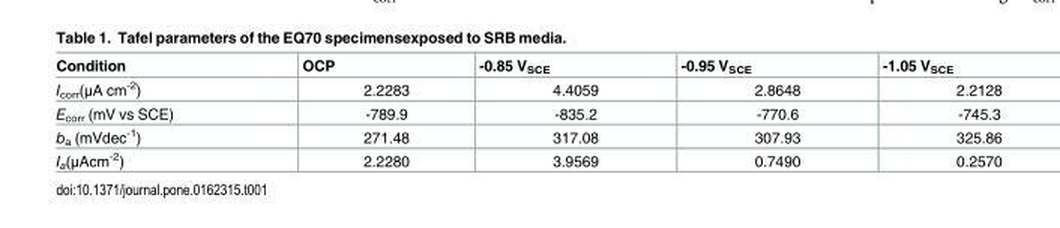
<table><thead><tr><td>Condition</td><td>OCP</td><td>-0.85 V<sub>SCE</sub></td><td>-0.95 V<sub>SCE</sub></td><td>-1.05 V<sub>SCE</sub></td></tr></thead><tbody><tr><td>I<sub>corr</sub>(μA cm<sup>-2</sup>)</td><td>2.2283</td><td>4.4059</td><td>2.8648</td><td>2.2128</td></tr><tr><td>E<sub>corr</sub> (mV vs SCE)</td><td>-789.9</td><td>-835.2</td><td>-770.6</td><td>-745.3</td></tr><tr><td>b<sub>a</sub> (mVdec<sup>-1</sup>)</td><td>271.48</td><td>317.08</td><td>307.93</td><td>325.86</td></tr><tr><td>I<sub>a</sub>(μAcm<sup>-2</sup>)</td><td>2.2280</td><td>3.9569</td><td>0.7490</td><td>0.2570</td></tr></tbody></table>